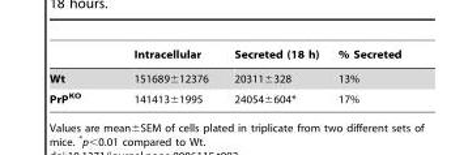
<table><thead><tr><td></td><td>Intracellular</td><td>Secreted (18 h)</td><td>% Secreted</td></tr></thead><tbody><tr><td>Wt</td><td>151689±12376</td><td>20311±328</td><td>13%</td></tr><tr><td>PrP<sup>KO</sup></td><td>141413±1995</td><td>24054±604*</td><td>17%</td></tr></tbody></table>